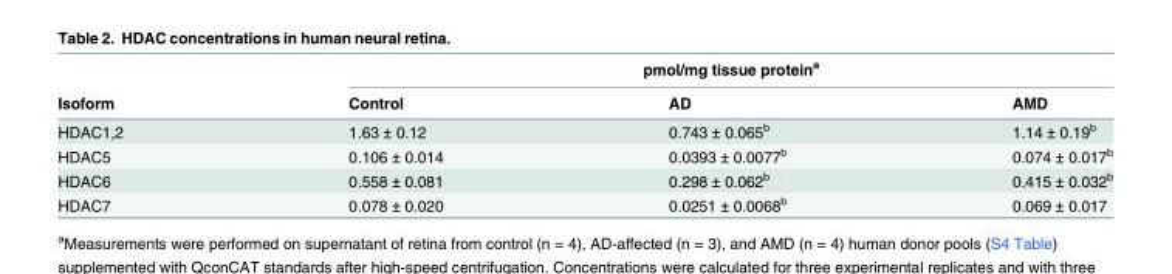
<table><thead><tr><td rowspan="2">Isoform</td><td colspan="3">pmol/mg tissue protein<sup>a</sup></td></tr><tr><td>Control</td><td>AD</td><td>AMD</td></tr></thead><tbody><tr><td>HDAC1,2</td><td>1.63 ± 0.12</td><td>0.743 ± 0.065<sup>b</sup></td><td>1.14 ± 0.19<sup>b</sup></td></tr><tr><td>HDAC5</td><td>0.106 ± 0.014</td><td>0.0393 ± 0.0077<sup>b</sup></td><td>0.074 ± 0.017<sup>b</sup></td></tr><tr><td>HDAC6</td><td>0.558 ± 0.081</td><td>0.298 ± 0.062<sup>b</sup></td><td>0.415 ± 0.032<sup>b</sup></td></tr><tr><td>HDAC7</td><td>0.078 ± 0.020</td><td>0.0251 ± 0.0068<sup>b</sup></td><td>0.069 ± 0.017</td></tr></tbody></table>